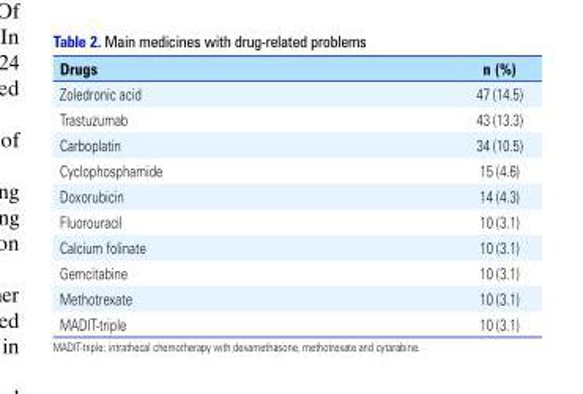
<table><thead><tr><td>Drugs</td><td>n (%)</td></tr></thead><tbody><tr><td>Zoledronic acid</td><td>47 (14.5)</td></tr><tr><td>Trastuzumab</td><td>43 (13.3)</td></tr><tr><td>Carboplatin</td><td>34 (10.5)</td></tr><tr><td>Cyclophosphamide</td><td>15 (4.6)</td></tr><tr><td>Doxorubicin</td><td>14 (4.3)</td></tr><tr><td>Fluorouracil</td><td>10 (3.1)</td></tr><tr><td>Calcium folinate</td><td>10 (3.1)</td></tr><tr><td>Gemcitabine</td><td>10 (3.1)</td></tr><tr><td>Methotrexate</td><td>10 (3.1)</td></tr><tr><td>MADIT-triple</td><td>10 (3.1)</td></tr></tbody></table>